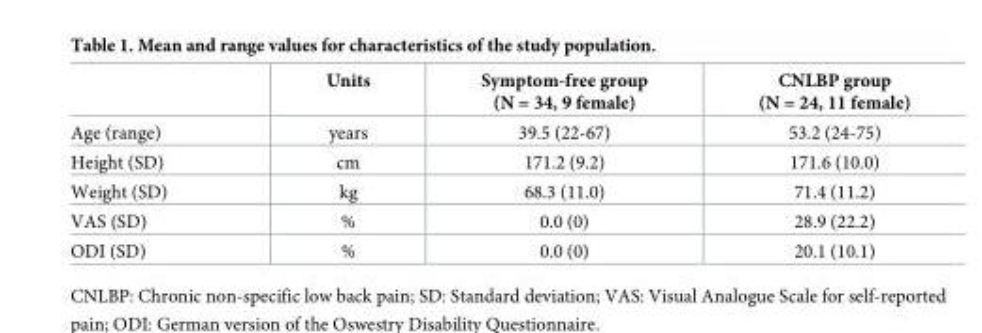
<table><thead><tr><td></td><td>Units</td><td>Symptom-free group (N = 34, 9 female)</td><td>CNLBP group (N = 24, 11 female)</td></tr></thead><tbody><tr><td>Age (range)</td><td>years</td><td>39.5 (22-67)</td><td>53.2 (24-75)</td></tr><tr><td>Height (SD)</td><td>cm</td><td>171.2 (9.2)</td><td>171.6 (10.0)</td></tr><tr><td>Weight (SD)</td><td>kg</td><td>68.3 (11.0)</td><td>71.4 (11.2)</td></tr><tr><td>VAS (SD)</td><td>%</td><td>0.0 (0)</td><td>28.9 (22.2)</td></tr><tr><td>ODI (SD)</td><td>%</td><td>0.0 (0)</td><td>20.1 (10.1)</td></tr></tbody></table>